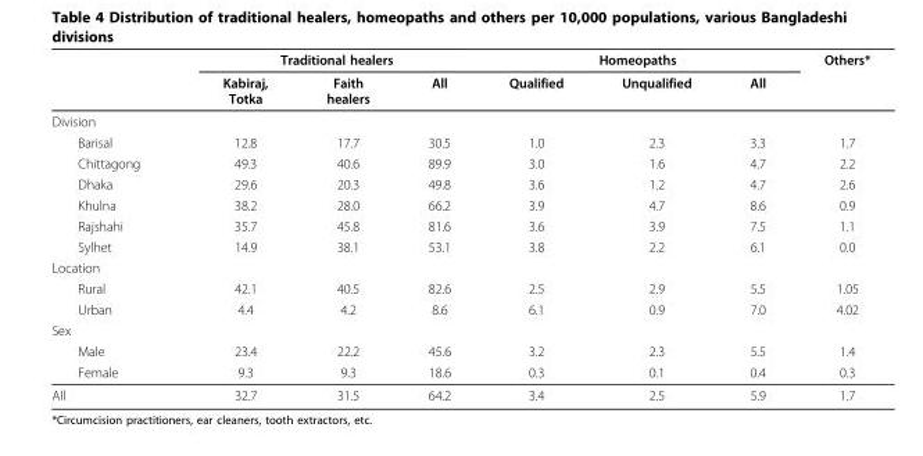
<table><thead><tr><td rowspan="2"></td><td colspan="3">Traditional healers</td><td colspan="3">Homeopaths</td><td rowspan="2">Others*</td></tr><tr><td>Kabiraj, Totka</td><td>Faith healers</td><td>All</td><td>Qualified</td><td>Unqualified</td><td>All</td></tr></thead><tbody><tr><td colspan="8">Division</td></tr><tr><td>Barisal</td><td>12.8</td><td>17.7</td><td>30.5</td><td>1.0</td><td>2.3</td><td>3.3</td><td>1.7</td></tr><tr><td>Chittagong</td><td>49.3</td><td>40.6</td><td>89.9</td><td>3.0</td><td>1.6</td><td>4.7</td><td>2.2</td></tr><tr><td>Dhaka</td><td>29.6</td><td>20.3</td><td>49.8</td><td>3.6</td><td>1.2</td><td>4.7</td><td>2.6</td></tr><tr><td>Khulna</td><td>38.2</td><td>28.0</td><td>66.2</td><td>3.9</td><td>4.7</td><td>8.6</td><td>0.9</td></tr><tr><td>Rajshahi</td><td>35.7</td><td>45.8</td><td>81.6</td><td>3.6</td><td>3.9</td><td>7.5</td><td>1.1</td></tr><tr><td>Sylhet</td><td>14.9</td><td>38.1</td><td>53.1</td><td>3.8</td><td>2.2</td><td>6.1</td><td>0.0</td></tr><tr><td colspan="8">Location</td></tr><tr><td>Rural</td><td>42.1</td><td>40.5</td><td>82.6</td><td>2.5</td><td>2.9</td><td>5.5</td><td>1.05</td></tr><tr><td>Urban</td><td>4.4</td><td>4.2</td><td>8.6</td><td>6.1</td><td>0.9</td><td>7.0</td><td>4.02</td></tr><tr><td colspan="8">Sex</td></tr><tr><td>Male</td><td>23.4</td><td>22.2</td><td>45.6</td><td>3.2</td><td>2.3</td><td>5.5</td><td>1.4</td></tr><tr><td>Female</td><td>9.3</td><td>9.3</td><td>18.6</td><td>0.3</td><td>0.1</td><td>0.4</td><td>0.3</td></tr><tr><td>All</td><td>32.7</td><td>31.5</td><td>64.2</td><td>3.4</td><td>2.5</td><td>5.9</td><td>1.7</td></tr></tbody></table>